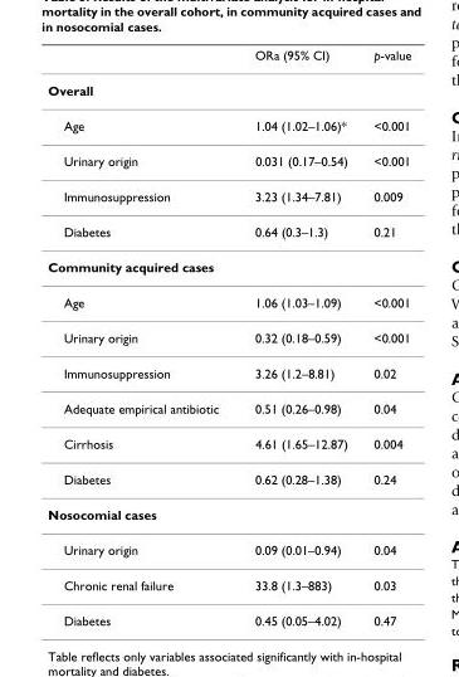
<table><thead><tr><td></td><td>ORa (95% CI)</td><td>p-value</td></tr></thead><tbody><tr><td colspan="3">Overall</td></tr><tr><td>Age</td><td>1.04 (1.02–1.06)*</td><td>&lt;0.001</td></tr><tr><td>Urinary origin</td><td>0.031 (0.17–0.54)</td><td>&lt;0.001</td></tr><tr><td>Immunosuppression</td><td>3.23 (1.34–7.81)</td><td>0.009</td></tr><tr><td>Diabetes</td><td>0.64 (0.3–1.3)</td><td>0.21</td></tr><tr><td colspan="3">Community acquired cases</td></tr><tr><td>Age</td><td>1.06 (1.03–1.09)</td><td>&lt;0.001</td></tr><tr><td>Urinary origin</td><td>0.32 (0.18–0.59)</td><td>&lt;0.001</td></tr><tr><td>Immunosuppression</td><td>3.26 (1.2–8.81)</td><td>0.02</td></tr><tr><td>Adequate empirical antibiotic</td><td>0.51 (0.26–0.98)</td><td>0.04</td></tr><tr><td>Cirrhosis</td><td>4.61 (1.65–12.87)</td><td>0.004</td></tr><tr><td>Diabetes</td><td>0.62 (0.28–1.38)</td><td>0.24</td></tr><tr><td colspan="3">Nosocomial cases</td></tr><tr><td>Urinary origin</td><td>0.09 (0.01–0.94)</td><td>0.04</td></tr><tr><td>Chronic renal failure</td><td>33.8 (1.3–883)</td><td>0.03</td></tr><tr><td>Diabetes</td><td>0.45 (0.05–4.02)</td><td>0.47</td></tr></tbody></table>